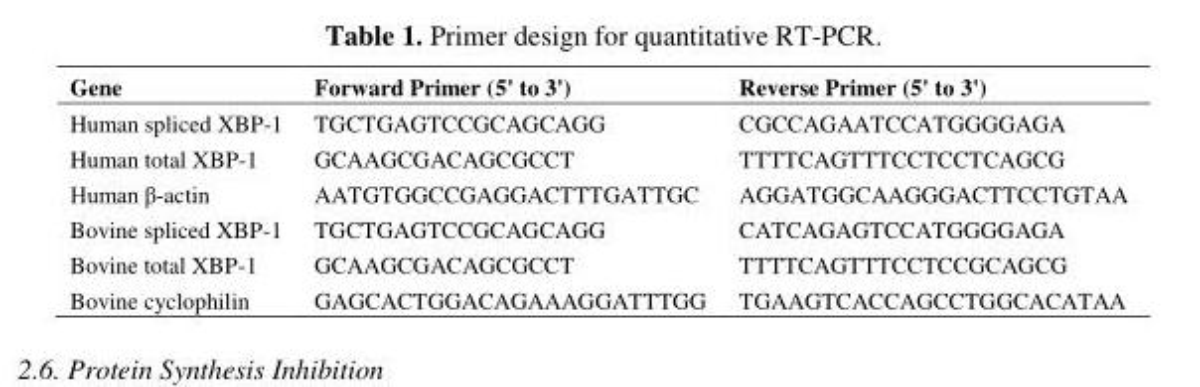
<table><thead><tr><td>Gene</td><td>Forward Primer (5&#x27; to 3&#x27;)</td><td>Reverse Primer (5&#x27; to 3&#x27;)</td></tr></thead><tbody><tr><td>Human spliced XBP-1</td><td>TGCTGAGTCCGCAGCAGG</td><td>CGCCAGAATCCATGGGGAGA</td></tr><tr><td>Human total XBP-1</td><td>GCAAGCGACAGCGCCT</td><td>TTTTCAGTTTCCTCCTCAGCG</td></tr><tr><td>Human β-actin</td><td>AATGTGGCCGAGGACTTTGATTGC</td><td>AGGATGGCAAGGGACTTCCTGTAA</td></tr><tr><td>Bovine spliced XBP-1</td><td>TGCTGAGTCCGCAGCAGG</td><td>CATCAGAGTCCATGGGGAGA</td></tr><tr><td>Bovine total XBP-1</td><td>GCAAGCGACAGCGCCT</td><td>TTTTCAGTTTCCTCCGCAGCG</td></tr><tr><td>Bovine cyclophilin</td><td>GAGCACTGGACAGAAAGGATTTGG</td><td>TGAAGTCACCAGCCTGGCACATAA</td></tr></tbody></table>